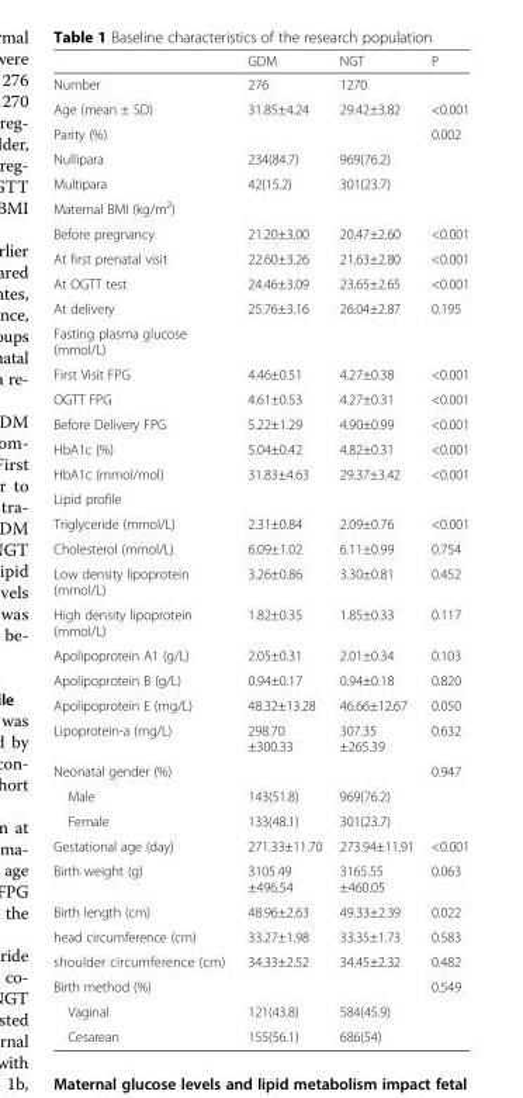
<table><thead><tr><td></td><td>GDM</td><td>NGT</td><td>P</td></tr></thead><tbody><tr><td>Number</td><td>276</td><td>1270</td><td></td></tr><tr><td>Age (mean ± SD)</td><td>31.85±4.24</td><td>29.42±3.82</td><td>&lt;0.001</td></tr><tr><td>Parity (%)</td><td></td><td></td><td>0.002</td></tr><tr><td>Nullipara</td><td>234(84.7)</td><td>969(76.2)</td><td></td></tr><tr><td>Multipara</td><td>42(15.2)</td><td>301(23.7)</td><td></td></tr><tr><td colspan="4">Maternal BMI (kg/m<sup>2</sup>)</td></tr><tr><td>Before pregnancy</td><td>21.20±3.00</td><td>20.47±2.60</td><td>&lt;0.001</td></tr><tr><td>At first prenatal visit</td><td>22.60±3.26</td><td>21.63±2.80</td><td>&lt;0.001</td></tr><tr><td>At OGTT test</td><td>24.46±3.09</td><td>23.65±2.65</td><td>&lt;0.001</td></tr><tr><td>At delivery</td><td>25.76±3.16</td><td>26.04±2.87</td><td>0.195</td></tr><tr><td colspan="4">Fasting plasma glucose (mmol/L)</td></tr><tr><td>First Visit FPG</td><td>4.46±0.51</td><td>4.27±0.38</td><td>&lt;0.001</td></tr><tr><td>OGTT FPG</td><td>4.61±0.53</td><td>4.27±0.31</td><td>&lt;0.001</td></tr><tr><td>Before Delivery FPG</td><td>5.22±1.29</td><td>4.90±0.99</td><td>&lt;0.001</td></tr><tr><td>HbA1c (%)</td><td>5.04±0.42</td><td>4.82±0.31</td><td>&lt;0.001</td></tr><tr><td>HbA1c (mmol/mol)</td><td>31.83±4.63</td><td>29.37±3.42</td><td>&lt;0.001</td></tr><tr><td colspan="4">Lipid profile</td></tr><tr><td>Triglyceride (mmol/L)</td><td>2.31±0.84</td><td>2.09±0.76</td><td>&lt;0.001</td></tr><tr><td>Cholesterol (mmol/L)</td><td>6.09±1.02</td><td>6.11±0.99</td><td>0.754</td></tr><tr><td>Low density lipoprotein (mmol/L)</td><td>3.26±0.86</td><td>3.30±0.81</td><td>0.452</td></tr><tr><td>High density lipoprotein (mmol/L)</td><td>1.82±0.35</td><td>1.85±0.33</td><td>0.117</td></tr><tr><td>Apolipoprotein A1 (g/L)</td><td>2.05±0.31</td><td>2.01±0.34</td><td>0.103</td></tr><tr><td>Apolipoprotein B (g/L)</td><td>0.94±0.17</td><td>0.94±0.18</td><td>0.820</td></tr><tr><td>Apolipoprotein E (mg/L)</td><td>48.32±13.28</td><td>46.66±12.67</td><td>0.050</td></tr><tr><td>Lipoprotein-a (mg/L)</td><td>298.70 ±300.33</td><td>307.35 ±265.39</td><td>0.632</td></tr><tr><td>Neonatal gender (%)</td><td></td><td></td><td>0.947</td></tr><tr><td>Male</td><td>143(51.8)</td><td>969(76.2)</td><td></td></tr><tr><td>Female</td><td>133(48.1)</td><td>301(23.7)</td><td></td></tr><tr><td>Gestational age (day)</td><td>271.33±11.70</td><td>273.94±11.91</td><td>&lt;0.001</td></tr><tr><td>Birth weight (g)</td><td>3105.49 ±496.54</td><td>3165.55 ±460.05</td><td>0.063</td></tr><tr><td>Birth length (cm)</td><td>48.96±2.63</td><td>49.33±2.39</td><td>0.022</td></tr><tr><td>head circumference (cm)</td><td>33.27±1.98</td><td>33.35±1.73</td><td>0.583</td></tr><tr><td>shoulder circumference (cm)</td><td>34.33±2.52</td><td>34.45±2.32</td><td>0.482</td></tr><tr><td>Birth method (%)</td><td></td><td></td><td>0.549</td></tr><tr><td>Vaginal</td><td>121(43.8)</td><td>584(45.9)</td><td></td></tr><tr><td>Cesarean</td><td>155(56.1)</td><td>686(54)</td><td></td></tr></tbody></table>